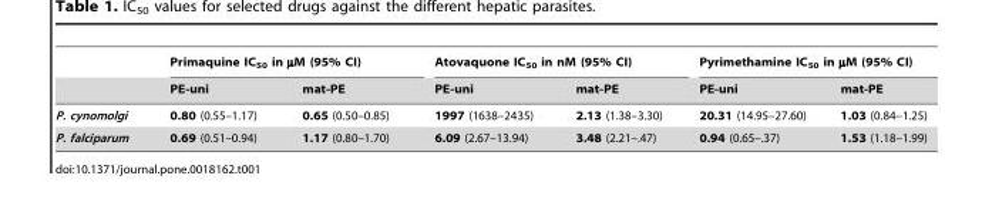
<table><thead><tr><td rowspan="2"></td><td colspan="2">Primaquine IC<sub>50</sub> in µM (95% CI)</td><td colspan="2">Atovaquone IC<sub>50</sub> in nM (95% CI)</td><td colspan="2">Pyrimethamine IC<sub>50</sub> in µM (95% CI)</td></tr><tr><td>PE-uni</td><td>mat-PE</td><td>PE-uni</td><td>mat-PE</td><td>PE-uni</td><td>mat-PE</td></tr></thead><tbody><tr><td>P. cynomolgi</td><td>0.80 (0.55–1.17)</td><td>0.65 (0.50–0.85)</td><td>1997 (1638–2435)</td><td>2.13 (1.38–3.30)</td><td>20.31 (14.95–27.60)</td><td>1.03 (0.84–1.25)</td></tr><tr><td>P. falciparum</td><td>0.69 (0.51–0.94)</td><td>1.17 (0.80–1.70)</td><td>6.09 (2.67–13.94)</td><td>3.48 (2.21–.47)</td><td>0.94 (0.65–.37)</td><td>1.53 (1.18–1.99)</td></tr></tbody></table>